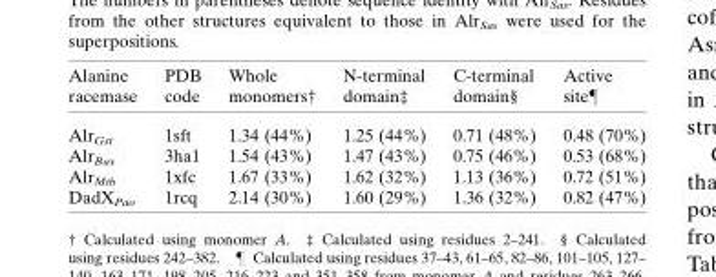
<table><thead><tr><td>Alanine racemase</td><td>PDB code</td><td>Whole monomers†</td><td>N-terminal domain‡</td><td>C-terminal domain§</td><td>Active site¶</td></tr></thead><tbody><tr><td>Alr<sub>Gst</sub></td><td>1sft</td><td>1.34 (44%)</td><td>1.25 (44%)</td><td>0.71 (48%)</td><td>0.48 (70%)</td></tr><tr><td>Alr<sub>Bax</sub></td><td>3ha1</td><td>1.54 (43%)</td><td>1.47 (43%)</td><td>0.75 (46%)</td><td>0.53 (68%)</td></tr><tr><td>Alr<sub>Mtb</sub></td><td>1xfc</td><td>1.67 (33%)</td><td>1.62 (32%)</td><td>1.13 (36%)</td><td>0.72 (51%)</td></tr><tr><td>DadX<sub>Pao</sub></td><td>1rcq</td><td>2.14 (30%)</td><td>1.60 (29%)</td><td>1.36 (32%)</td><td>0.82 (47%)</td></tr></tbody></table>